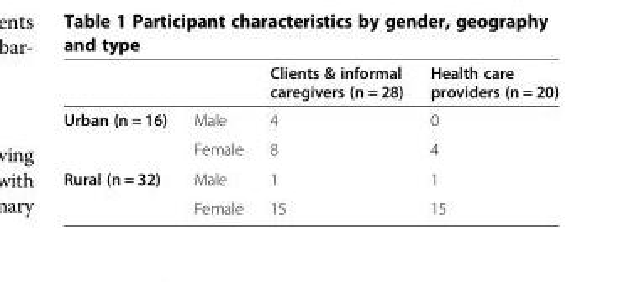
<table><thead><tr><td></td><td></td><td>Clients &amp; informal caregivers (n = 28)</td><td>Health care providers (n = 20)</td></tr></thead><tbody><tr><td rowspan="2">Urban (n = 16)</td><td>Male</td><td>4</td><td>0</td></tr><tr><td>Female</td><td>8</td><td>4</td></tr><tr><td rowspan="2">Rural (n = 32)</td><td>Male</td><td>1</td><td>1</td></tr><tr><td>Female</td><td>15</td><td>15</td></tr></tbody></table>